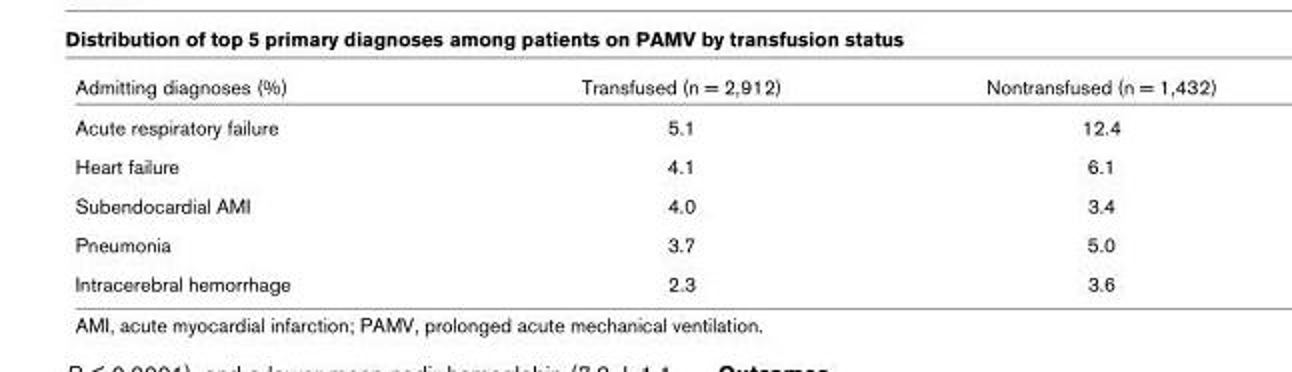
<table><thead><tr><td>Admitting diagnoses (%)</td><td>Transfused (n = 2,912)</td><td>Nontransfused (n = 1,432)</td></tr></thead><tbody><tr><td>Acute respiratory failure</td><td>5.1</td><td>12.4</td></tr><tr><td>Heart failure</td><td>4.1</td><td>6.1</td></tr><tr><td>Subendocardial AMI</td><td>4.0</td><td>3.4</td></tr><tr><td>Pneumonia</td><td>3.7</td><td>5.0</td></tr><tr><td>Intracerebral hemorrhage</td><td>2.3</td><td>3.6</td></tr></tbody></table>